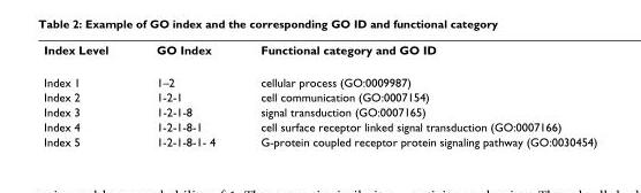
<table><thead><tr><td>Index Level</td><td>GO Index</td><td>Functional category and GO ID</td></tr></thead><tbody><tr><td>Index 1</td><td>1–2</td><td>cellular process (GO:0009987)</td></tr><tr><td>Index 2</td><td>1-2-1</td><td>cell communication (GO:0007154)</td></tr><tr><td>Index 3</td><td>1-2-1-8</td><td>signal transduction (GO:0007165)</td></tr><tr><td>Index 4</td><td>1-2-1-8-1</td><td>cell surface receptor linked signal transduction (GO:0007166)</td></tr><tr><td>Index 5</td><td>1-2-1-8-1- 4</td><td>G-protein coupled receptor protein signaling pathway (GO:0030454)</td></tr></tbody></table>